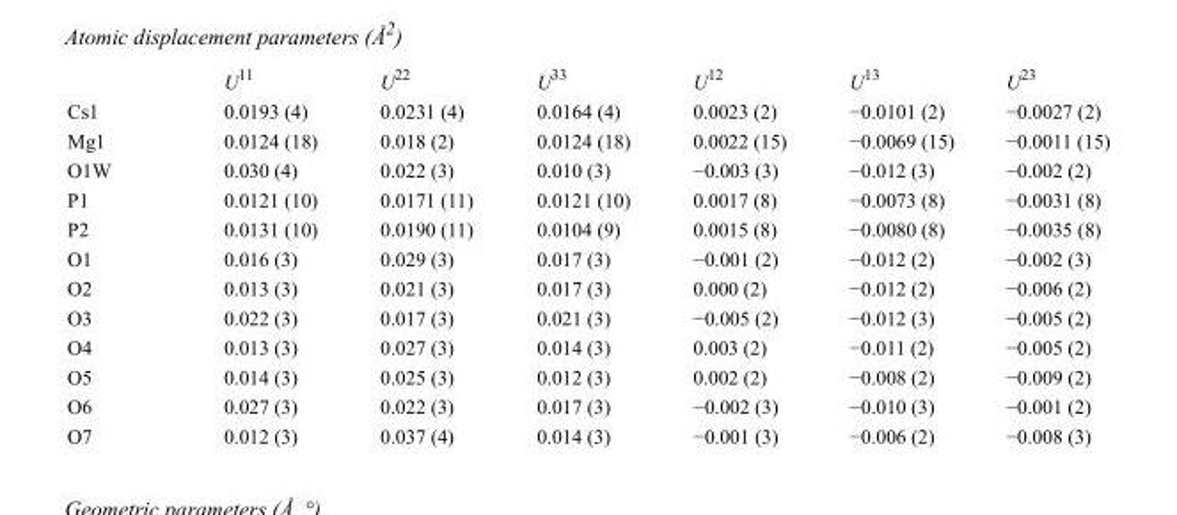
<table><thead><tr><td></td><td>U<sup>11</sup></td><td>U<sup>22</sup></td><td>U<sup>33</sup></td><td>U<sup>12</sup></td><td>U<sup>13</sup></td><td>U<sup>23</sup></td></tr></thead><tbody><tr><td>Cs1</td><td>0.0193 (4)</td><td>0.0231 (4)</td><td>0.0164 (4)</td><td>0.0023 (2)</td><td>−0.0101 (2)</td><td>−0.0027 (2)</td></tr><tr><td>Mg1</td><td>0.0124 (18)</td><td>0.018 (2)</td><td>0.0124 (18)</td><td>0.0022 (15)</td><td>−0.0069 (15)</td><td>−0.0011 (15)</td></tr><tr><td>O1W</td><td>0.030 (4)</td><td>0.022 (3)</td><td>0.010 (3)</td><td>−0.003 (3)</td><td>−0.012 (3)</td><td>−0.002 (2)</td></tr><tr><td>P1</td><td>0.0121 (10)</td><td>0.0171 (11)</td><td>0.0121 (10)</td><td>0.0017 (8)</td><td>−0.0073 (8)</td><td>−0.0031 (8)</td></tr><tr><td>P2</td><td>0.0131 (10)</td><td>0.0190 (11)</td><td>0.0104 (9)</td><td>0.0015 (8)</td><td>−0.0080 (8)</td><td>−0.0035 (8)</td></tr><tr><td>O1</td><td>0.016 (3)</td><td>0.029 (3)</td><td>0.017 (3)</td><td>−0.001 (2)</td><td>−0.012 (2)</td><td>−0.002 (3)</td></tr><tr><td>O2</td><td>0.013 (3)</td><td>0.021 (3)</td><td>0.017 (3)</td><td>0.000 (2)</td><td>−0.012 (2)</td><td>−0.006 (2)</td></tr><tr><td>O3</td><td>0.022 (3)</td><td>0.017 (3)</td><td>0.021 (3)</td><td>−0.005 (2)</td><td>−0.012 (3)</td><td>−0.005 (2)</td></tr><tr><td>O4</td><td>0.013 (3)</td><td>0.027 (3)</td><td>0.014 (3)</td><td>0.003 (2)</td><td>−0.011 (2)</td><td>−0.005 (2)</td></tr><tr><td>O5</td><td>0.014 (3)</td><td>0.025 (3)</td><td>0.012 (3)</td><td>0.002 (2)</td><td>−0.008 (2)</td><td>−0.009 (2)</td></tr><tr><td>O6</td><td>0.027 (3)</td><td>0.022 (3)</td><td>0.017 (3)</td><td>−0.002 (3)</td><td>−0.010 (3)</td><td>−0.001 (2)</td></tr><tr><td>O7</td><td>0.012 (3)</td><td>0.037 (4)</td><td>0.014 (3)</td><td>−0.001 (3)</td><td>−0.006 (2)</td><td>−0.008 (3)</td></tr></tbody></table>